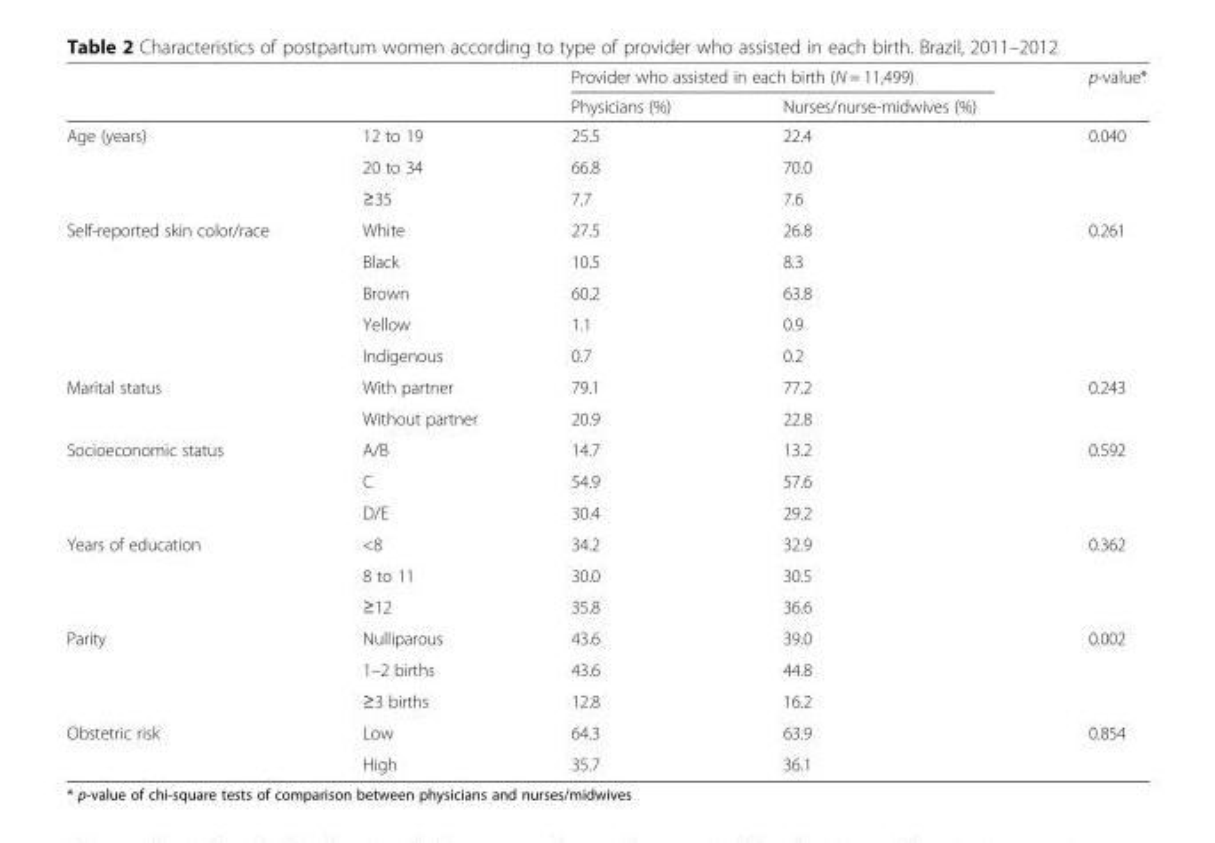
<table><thead><tr><td rowspan="2"></td><td rowspan="2"></td><td colspan="2">Provider who assisted in each birth (N = 11,499)</td><td rowspan="2">p-value*</td></tr><tr><td>Physicians (%)</td><td>Nurses/nurse-midwives (%)</td></tr></thead><tbody><tr><td rowspan="3">Age (years)</td><td>12 to 19</td><td>25.5</td><td>22.4</td><td rowspan="3">0.040</td></tr><tr><td>20 to 34</td><td>66.8</td><td>70.0</td></tr><tr><td>≥35</td><td>7.7</td><td>7.6</td></tr><tr><td rowspan="5">Self-reported skin color/race</td><td>White</td><td>27.5</td><td>26.8</td><td rowspan="5">0.261</td></tr><tr><td>Black</td><td>10.5</td><td>8.3</td></tr><tr><td>Brown</td><td>60.2</td><td>63.8</td></tr><tr><td>Yellow</td><td>1.1</td><td>0.9</td></tr><tr><td>Indigenous</td><td>0.7</td><td>0.2</td></tr><tr><td rowspan="2">Marital status</td><td>With partner</td><td>79.1</td><td>77.2</td><td rowspan="2">0.243</td></tr><tr><td>Without partner</td><td>20.9</td><td>22.8</td></tr><tr><td rowspan="3">Socioeconomic status</td><td>A/B</td><td>14.7</td><td>13.2</td><td rowspan="3">0.592</td></tr><tr><td>C</td><td>54.9</td><td>57.6</td></tr><tr><td>D/E</td><td>30.4</td><td>29.2</td></tr><tr><td rowspan="3">Years of education</td><td>&lt;8</td><td>34.2</td><td>32.9</td><td rowspan="3">0.362</td></tr><tr><td>8 to 11</td><td>30.0</td><td>30.5</td></tr><tr><td>≥12</td><td>35.8</td><td>36.6</td></tr><tr><td rowspan="3">Parity</td><td>Nulliparous</td><td>43.6</td><td>39.0</td><td rowspan="3">0.002</td></tr><tr><td>1–2 births</td><td>43.6</td><td>44.8</td></tr><tr><td>≥3 births</td><td>12.8</td><td>16.2</td></tr><tr><td rowspan="2">Obstetric risk</td><td>Low</td><td>64.3</td><td>63.9</td><td rowspan="2">0.854</td></tr><tr><td>High</td><td>35.7</td><td>36.1</td></tr></tbody></table>